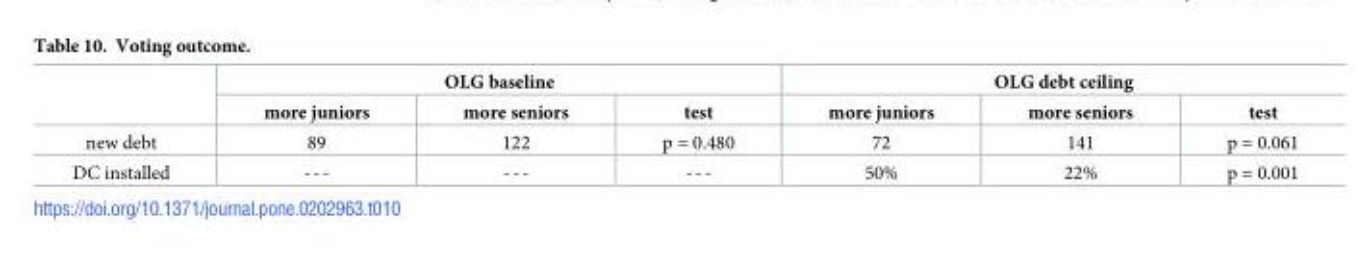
<table><thead><tr><td rowspan="2"></td><td colspan="3">OLG baseline</td><td colspan="3">OLG debt ceiling</td></tr><tr><td>more juniors</td><td>more seniors</td><td>test</td><td>more juniors</td><td>more seniors</td><td>test</td></tr></thead><tbody><tr><td>new debt</td><td>89</td><td>122</td><td>p = 0.480</td><td>72</td><td>141</td><td>p = 0.061</td></tr><tr><td>DC installed</td><td>---</td><td>---</td><td>---</td><td>50%</td><td>22%</td><td>p = 0.001</td></tr></tbody></table>